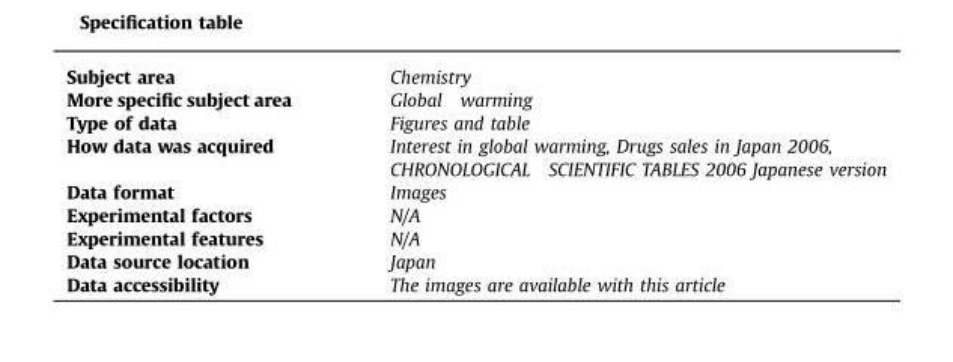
<table><tbody><tr><td>Subject area</td><td>Chemistry</td></tr><tr><td>More specific subject area</td><td>Global warming</td></tr><tr><td>Type of data</td><td>Figures and table</td></tr><tr><td rowspan="2">How data was acquired</td><td>Interest in global warming, Drugs sales in Japan 2006,</td></tr><tr><td>CHRONOLOGICAL SCIENTIFIC TABLES 2006 Japanese version</td></tr><tr><td>Data format</td><td>Images</td></tr><tr><td>Experimental factors</td><td>N/A</td></tr><tr><td>Experimental features</td><td>N/A</td></tr><tr><td>Data source location</td><td>Japan</td></tr><tr><td>Data accessibility</td><td>The images are available with this article</td></tr></tbody></table>